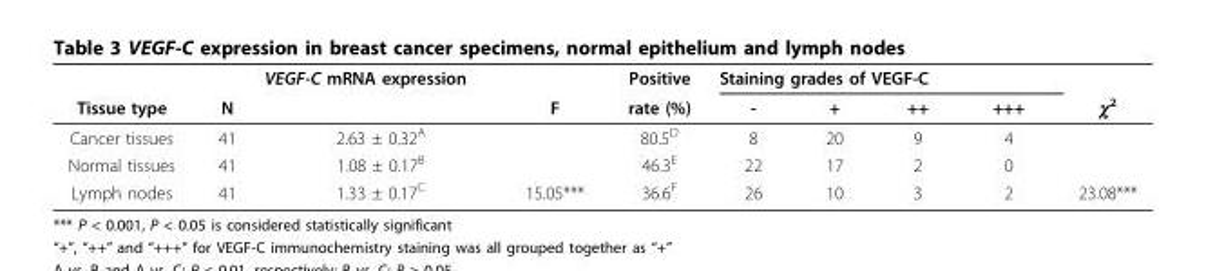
<table><thead><tr><td rowspan="2">Tissue type</td><td rowspan="2">N</td><td rowspan="2">VEGF-C mRNA expression</td><td rowspan="2">F</td><td rowspan="2">Positive rate (%)</td><td colspan="4">Staining grades of VEGF-C</td><td rowspan="2">χ<sup>2</sup></td></tr><tr><td>-</td><td>+</td><td>++</td><td>+++</td></tr></thead><tbody><tr><td>Cancer tissues</td><td>41</td><td>2.63 ± 0.32<sup>A</sup></td><td></td><td>80.5<sup>D</sup></td><td>8</td><td>20</td><td>9</td><td>4</td><td></td></tr><tr><td>Normal tissues</td><td>41</td><td>1.08 ± 0.17<sup>B</sup></td><td></td><td>46.3<sup>E</sup></td><td>22</td><td>17</td><td>2</td><td>0</td><td></td></tr><tr><td>Lymph nodes</td><td>41</td><td>1.33 ± 0.17<sup>C</sup></td><td>15.05***</td><td>36.6<sup>F</sup></td><td>26</td><td>10</td><td>3</td><td>2</td><td>23.08***</td></tr></tbody></table>